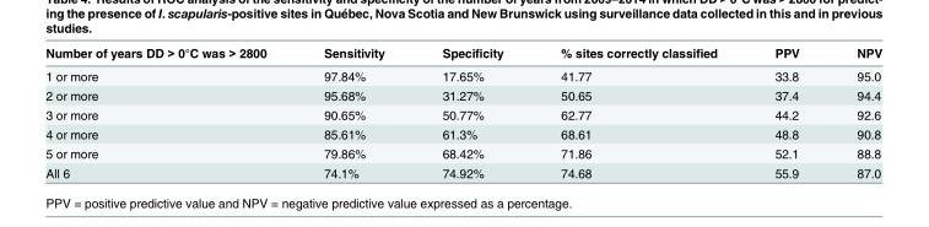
<table><thead><tr><td>Number of years DD &gt; 0°C was &gt; 2800</td><td>Sensitivity</td><td>Specificity</td><td>% sites correctly classified</td><td>PPV</td><td>NPV</td></tr></thead><tbody><tr><td>1 or more</td><td>97.84%</td><td>17.65%</td><td>41.77</td><td>33.8</td><td>95.0</td></tr><tr><td>2 or more</td><td>95.68%</td><td>31.27%</td><td>50.65</td><td>37.4</td><td>94.4</td></tr><tr><td>3 or more</td><td>90.65%</td><td>50.77%</td><td>62.77</td><td>44.2</td><td>92.6</td></tr><tr><td>4 or more</td><td>85.61%</td><td>61.3%</td><td>68.61</td><td>48.8</td><td>90.8</td></tr><tr><td>5 or more</td><td>79.86%</td><td>68.42%</td><td>71.86</td><td>52.1</td><td>88.8</td></tr><tr><td>All 6</td><td>74.1%</td><td>74.92%</td><td>74.68</td><td>55.9</td><td>87.0</td></tr></tbody></table>